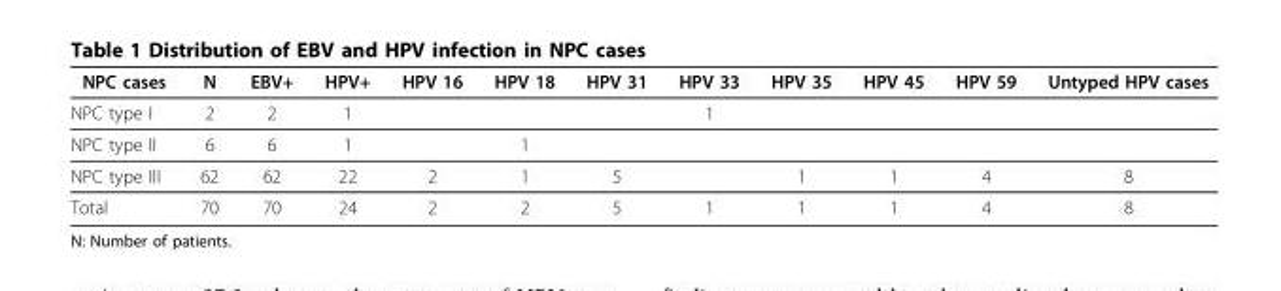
<table><thead><tr><td>NPC cases</td><td>N</td><td>EBV+</td><td>HPV+</td><td>HPV 16</td><td>HPV 18</td><td>HPV 31</td><td>HPV 33</td><td>HPV 35</td><td>HPV 45</td><td>HPV 59</td><td>Untyped HPV cases</td></tr></thead><tbody><tr><td>NPC type I</td><td>2</td><td>2</td><td>1</td><td></td><td></td><td></td><td>1</td><td></td><td></td><td></td><td></td></tr><tr><td>NPC type II</td><td>6</td><td>6</td><td>1</td><td></td><td>1</td><td></td><td></td><td></td><td></td><td></td><td></td></tr><tr><td>NPC type III</td><td>62</td><td>62</td><td>22</td><td>2</td><td>1</td><td>5</td><td></td><td>1</td><td>1</td><td>4</td><td>8</td></tr><tr><td>Total</td><td>70</td><td>70</td><td>24</td><td>2</td><td>2</td><td>5</td><td>1</td><td>1</td><td>1</td><td>4</td><td>8</td></tr></tbody></table>